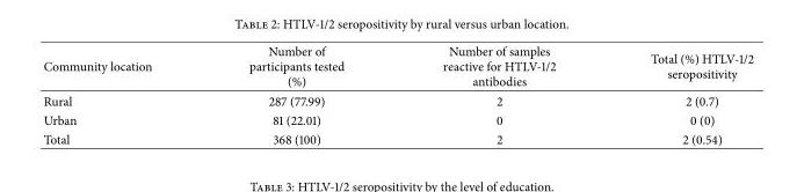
<table><thead><tr><td>Community location</td><td>Number of participants tested (%)</td><td>Number of samples reactive for HTLV-1/2 antibodies</td><td>Total (%) HTLV-1/2 seropositivity</td></tr></thead><tbody><tr><td>Rural</td><td>287 (77.99)</td><td>2</td><td>2 (0.7)</td></tr><tr><td>Urban</td><td>81 (22.01)</td><td>0</td><td>0 (0)</td></tr><tr><td>Total</td><td>368 (100)</td><td>2</td><td>2 (0.54)</td></tr></tbody></table>